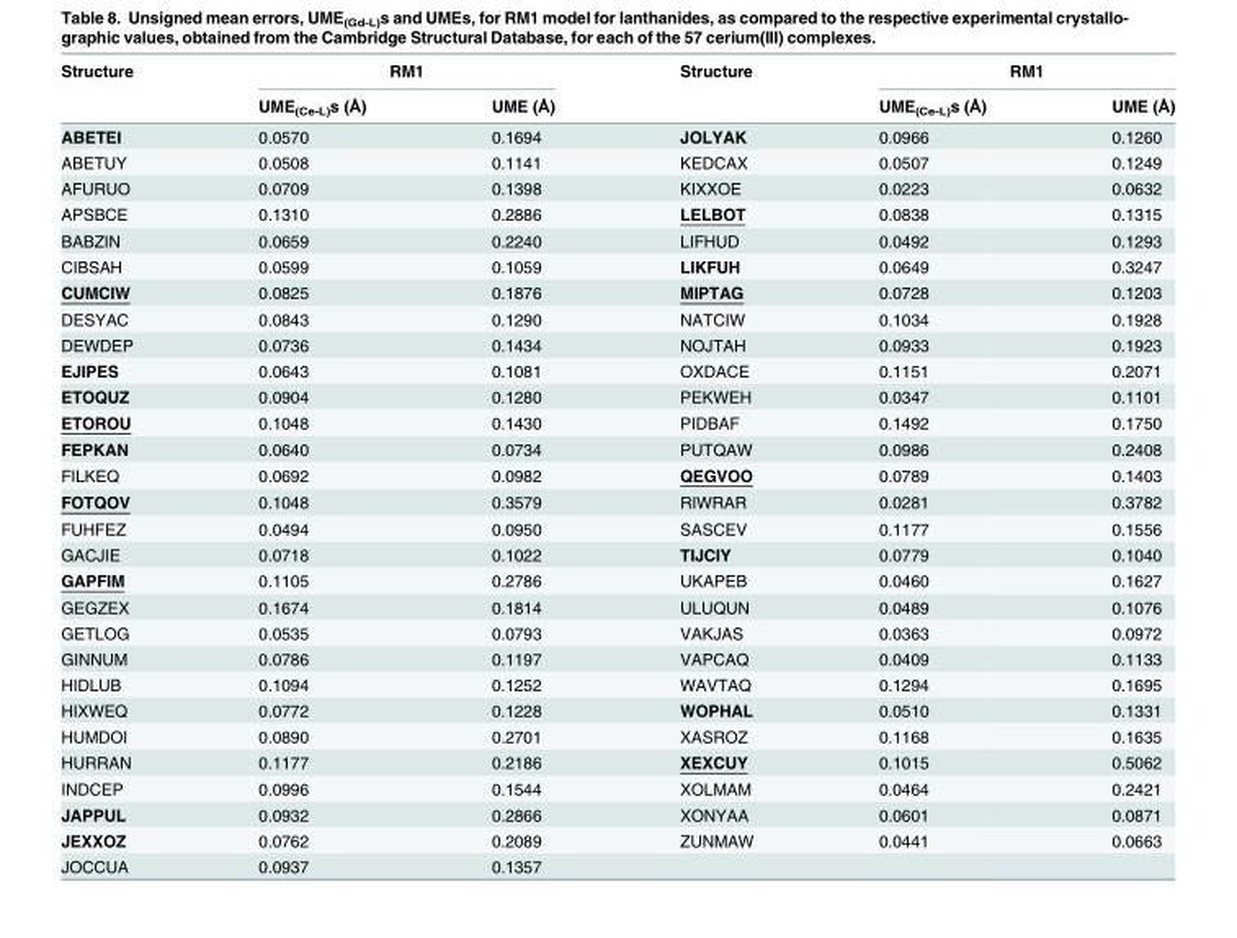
<table><thead><tr><td rowspan="2">Structure</td><td colspan="2">RM1</td><td rowspan="2">Structure</td><td colspan="2">RM1</td></tr><tr><td>UME<sub>(Ce-L)</sub>s (Å)</td><td>UME (Å)</td><td>UME<sub>(Ce-L)</sub>s (Å)</td><td>UME (Å)</td></tr></thead><tbody><tr><td>ABETEI</td><td>0.0570</td><td>0.1694</td><td>JOLYAK</td><td>0.0966</td><td>0.1260</td></tr><tr><td>ABETUY</td><td>0.0508</td><td>0.1141</td><td>KEDCAX</td><td>0.0507</td><td>0.1249</td></tr><tr><td>AFURUO</td><td>0.0709</td><td>0.1398</td><td>KIXXOE</td><td>0.0223</td><td>0.0632</td></tr><tr><td>APSBCE</td><td>0.1310</td><td>0.2886</td><td>LELBOT</td><td>0.0838</td><td>0.1315</td></tr><tr><td>BABZIN</td><td>0.0659</td><td>0.2240</td><td>LIFHUD</td><td>0.0492</td><td>0.1293</td></tr><tr><td>CIBSAH</td><td>0.0599</td><td>0.1059</td><td>LIKFUH</td><td>0.0649</td><td>0.3247</td></tr><tr><td>CUMCIW</td><td>0.0825</td><td>0.1876</td><td>MIPTAG</td><td>0.0728</td><td>0.1203</td></tr><tr><td>DESYAC</td><td>0.0843</td><td>0.1290</td><td>NATCIW</td><td>0.1034</td><td>0.1928</td></tr><tr><td>DEWDEP</td><td>0.0736</td><td>0.1434</td><td>NOJTAH</td><td>0.0933</td><td>0.1923</td></tr><tr><td>EJIPES</td><td>0.0643</td><td>0.1081</td><td>OXDACE</td><td>0.1151</td><td>0.2071</td></tr><tr><td>ETOQUZ</td><td>0.0904</td><td>0.1280</td><td>PEKWEH</td><td>0.0347</td><td>0.1101</td></tr><tr><td>ETOROU</td><td>0.1048</td><td>0.1430</td><td>PIDBAF</td><td>0.1492</td><td>0.1750</td></tr><tr><td>FEPKAN</td><td>0.0640</td><td>0.0734</td><td>PUTQAW</td><td>0.0986</td><td>0.2408</td></tr><tr><td>FILKEQ</td><td>0.0692</td><td>0.0982</td><td>QEGVOO</td><td>0.0789</td><td>0.1403</td></tr><tr><td>FOTQOV</td><td>0.1048</td><td>0.3579</td><td>RIWRAR</td><td>0.0281</td><td>0.3782</td></tr><tr><td>FUHFEZ</td><td>0.0494</td><td>0.0950</td><td>SASCEV</td><td>0.1177</td><td>0.1556</td></tr><tr><td>GACJIE</td><td>0.0718</td><td>0.1022</td><td>TIJCIY</td><td>0.0779</td><td>0.1040</td></tr><tr><td>GAPFIM</td><td>0.1105</td><td>0.2786</td><td>UKAPEB</td><td>0.0460</td><td>0.1627</td></tr><tr><td>GEGZEX</td><td>0.1674</td><td>0.1814</td><td>ULUQUN</td><td>0.0489</td><td>0.1076</td></tr><tr><td>GETLOG</td><td>0.0535</td><td>0.0793</td><td>VAKJAS</td><td>0.0363</td><td>0.0972</td></tr><tr><td>GINNUM</td><td>0.0786</td><td>0.1197</td><td>VAPCAQ</td><td>0.0409</td><td>0.1133</td></tr><tr><td>HIDLUB</td><td>0.1094</td><td>0.1252</td><td>WAVTAQ</td><td>0.1294</td><td>0.1695</td></tr><tr><td>HIXWEQ</td><td>0.0772</td><td>0.1228</td><td>WOPHAL</td><td>0.0510</td><td>0.1331</td></tr><tr><td>HUMDOI</td><td>0.0890</td><td>0.2701</td><td>XASROZ</td><td>0.1168</td><td>0.1635</td></tr><tr><td>HURRAN</td><td>0.1177</td><td>0.2186</td><td>XEXCUY</td><td>0.1015</td><td>0.5062</td></tr><tr><td>INDCEP</td><td>0.0996</td><td>0.1544</td><td>XOLMAM</td><td>0.0464</td><td>0.2421</td></tr><tr><td>JAPPUL</td><td>0.0932</td><td>0.2866</td><td>XONYAA</td><td>0.0601</td><td>0.0871</td></tr><tr><td>JEXXOZ</td><td>0.0762</td><td>0.2089</td><td>ZUNMAW</td><td>0.0441</td><td>0.0663</td></tr><tr><td>JOCCUA</td><td>0.0937</td><td>0.1357</td><td></td><td></td><td></td></tr></tbody></table>